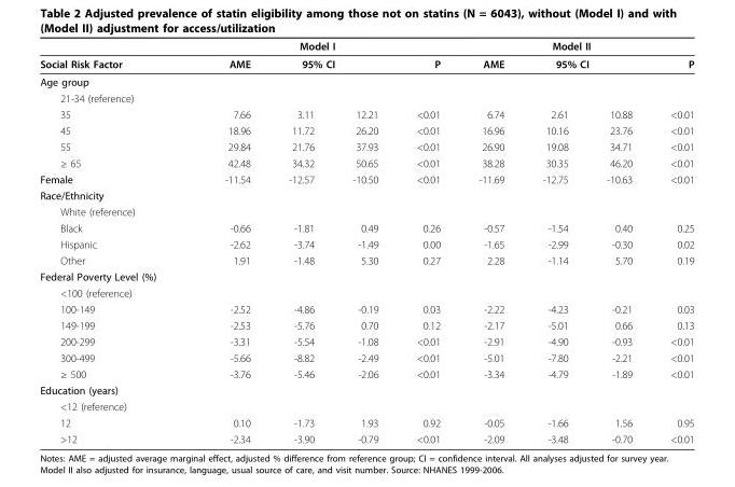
<table><thead><tr><td rowspan="3">Social Risk Factor Age group</td><td colspan="4">Model I</td><td colspan="4">Model II</td></tr><tr><td rowspan="2">AME</td><td colspan="2">95% CI</td><td rowspan="2">P</td><td rowspan="2">AME</td><td colspan="2">95% CI</td><td rowspan="2">P</td></tr><tr><td></td><td></td><td></td><td></td></tr></thead><tbody><tr><td colspan="9">21-34 (reference)</td></tr><tr><td>35</td><td>7.66</td><td>3.11</td><td>12.21</td><td>&lt;0.01</td><td>6.74</td><td>2.61</td><td>10.88</td><td>&lt;0.01</td></tr><tr><td>45</td><td>18.96</td><td>11.72</td><td>26.20</td><td>&lt;0.01</td><td>16.96</td><td>10.16</td><td>23.76</td><td>&lt;0.01</td></tr><tr><td>55</td><td>29.84</td><td>21.76</td><td>37.93</td><td>&lt;0.01</td><td>26.90</td><td>19.08</td><td>34.71</td><td>&lt;0.01</td></tr><tr><td>≥ 65</td><td>42.48</td><td>34.32</td><td>50.65</td><td>&lt;0.01</td><td>38.28</td><td>30.35</td><td>46.20</td><td>&lt;0.01</td></tr><tr><td>Female</td><td>-11.54</td><td>-12.57</td><td>-10.50</td><td>&lt;0.01</td><td>-11.69</td><td>-12.75</td><td>-10.63</td><td>&lt;0.01</td></tr><tr><td colspan="9">Race/Ethnicity</td></tr><tr><td colspan="9">White (reference)</td></tr><tr><td>Black</td><td>-0.66</td><td>-1.81</td><td>0.49</td><td>0.26</td><td>-0.57</td><td>-1.54</td><td>0.40</td><td>0.25</td></tr><tr><td>Hispanic</td><td>-2.62</td><td>-3.74</td><td>-1.49</td><td>0.00</td><td>-1.65</td><td>-2.99</td><td>-0.30</td><td>0.02</td></tr><tr><td>Other</td><td>1.91</td><td>-1.48</td><td>5.30</td><td>0.27</td><td>2.28</td><td>-1.14</td><td>5.70</td><td>0.19</td></tr><tr><td colspan="9">Federal Poverty Level (%)</td></tr><tr><td colspan="9">&lt;100 (reference)</td></tr><tr><td>100-149</td><td>-2.52</td><td>-4.86</td><td>-0.19</td><td>0.03</td><td>-2.22</td><td>-4.23</td><td>-0.21</td><td>0.03</td></tr><tr><td>149-199</td><td>-2.53</td><td>-5.76</td><td>0.70</td><td>0.12</td><td>-2.17</td><td>-5.01</td><td>0.66</td><td>0.13</td></tr><tr><td>200-299</td><td>-3.31</td><td>-5.54</td><td>-1.08</td><td>&lt;0.01</td><td>-2.91</td><td>-4.90</td><td>-0.93</td><td>&lt;0.01</td></tr><tr><td>300-499</td><td>-5.66</td><td>-8.82</td><td>-2.49</td><td>&lt;0.01</td><td>-5.01</td><td>-7.80</td><td>-2.21</td><td>&lt;0.01</td></tr><tr><td>≥ 500</td><td>-3.76</td><td>-5.46</td><td>-2.06</td><td>&lt;0.01</td><td>-3.34</td><td>-4.79</td><td>-1.89</td><td>&lt;0.01</td></tr><tr><td colspan="9">Education (years)</td></tr><tr><td colspan="9">&lt;12 (reference)</td></tr><tr><td>12</td><td>0.10</td><td>-1.73</td><td>1.93</td><td>0.92</td><td>-0.05</td><td>-1.66</td><td>1.56</td><td>0.95</td></tr><tr><td>&gt;12</td><td>-2.34</td><td>-3.90</td><td>-0.79</td><td>&lt;0.01</td><td>-2.09</td><td>-3.48</td><td>-0.70</td><td>&lt;0.01</td></tr></tbody></table>